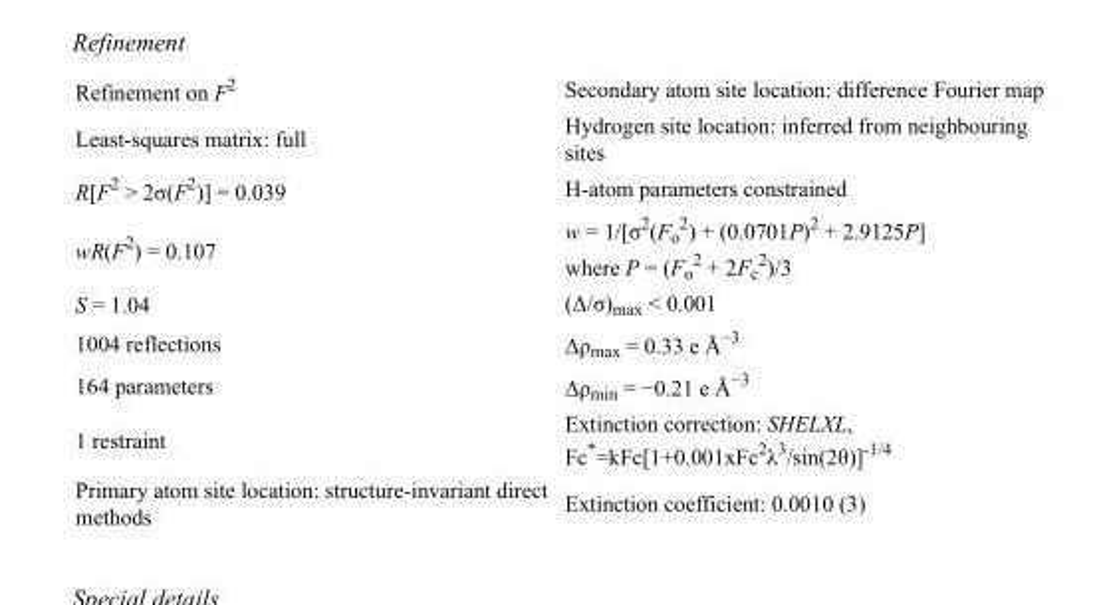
<table><tbody><tr><td>Refinement on F<sup>2</sup></td><td>Secondary atom site location: difference Fourier map</td></tr><tr><td>Least-squares matrix: full</td><td>Hydrogen site location: inferred from neighbouring sites</td></tr><tr><td>R[F<sup>2</sup> &gt; 2σ(F<sup>2</sup>)] = 0.039</td><td>H-atom parameters constrained</td></tr><tr><td>wR(F<sup>2</sup>) = 0.107</td><td>w = 1/[σ<sup>2</sup>(F<sub>o</sub> <sup>2</sup>) + (0.0701P)<sup>2</sup> + 2.9125P] where P = (F<sub>o</sub> <sup>2</sup> + 2F<sub>c</sub> <sup>2</sup>)/3</td></tr><tr><td>S = 1.04</td><td>(Δ/σ)<sub>max</sub> &lt; 0.001</td></tr><tr><td>1004 reflections</td><td>Δρ<sub>max</sub> = 0.33 e Å<sup>−3</sup></td></tr><tr><td>164 parameters</td><td>Δρ<sub>min</sub> = −0.21 e Å<sup>−3</sup></td></tr><tr><td>1 restraint</td><td>Extinction correction: SHELXL, Fc*=kFc[1+0.001xFc<sup>2</sup>λ<sup>3</sup>/sin(2θ)]<sup>-1/4</sup></td></tr><tr><td>Primary atom site location: structure-invariant direct methods</td><td>Extinction coefficient: 0.0010 (3)</td></tr></tbody></table>